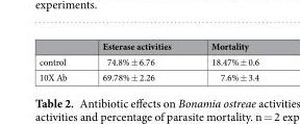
<table><thead><tr><td></td><td>Esterase activities</td><td>Mortality</td></tr></thead><tbody><tr><td>control</td><td>74.8% ± 6.76</td><td>18.47% ± 0.6</td></tr><tr><td>10X Ab</td><td>69.78% ± 2.26</td><td>7.6% ± 3.4</td></tr></tbody></table>